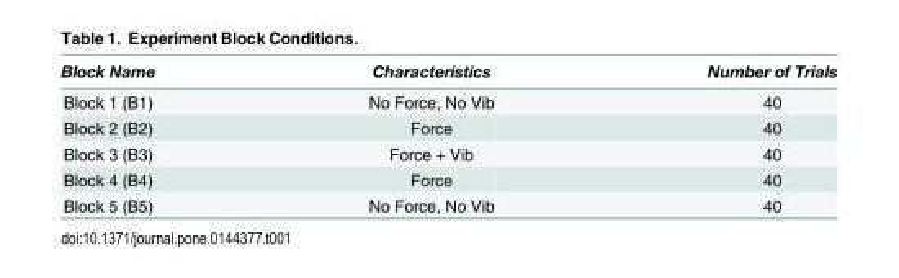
<table><thead><tr><td>Block Name</td><td>Characteristics</td><td>Number of Trials</td></tr></thead><tbody><tr><td>Block 1 (B1)</td><td>No Force, No Vib</td><td>40</td></tr><tr><td>Block 2 (B2)</td><td>Force</td><td>40</td></tr><tr><td>Block 3 (B3)</td><td>Force + Vib</td><td>40</td></tr><tr><td>Block 4 (B4)</td><td>Force</td><td>40</td></tr><tr><td>Block 5 (B5)</td><td>No Force, No Vib</td><td>40</td></tr></tbody></table>